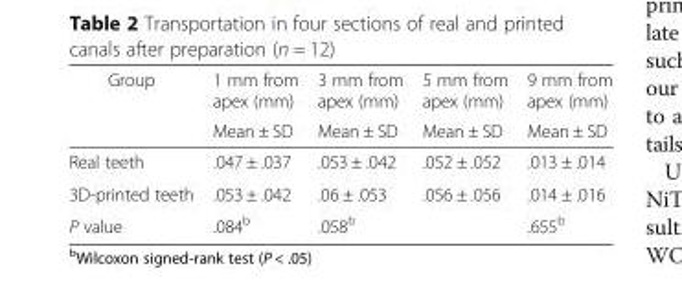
<table><thead><tr><td rowspan="2">Group</td><td rowspan="2">1 mm from apex (mm) Mean ± SD</td><td rowspan="2">3 mm from apex (mm) Mean ± SD</td><td rowspan="2">5 mm from apex (mm) Mean ± SD</td><td rowspan="2">9 mm from apex (mm) Mean ± SD</td></tr><tr></tr></thead><tbody><tr><td>Real teeth</td><td>.047 ± .037</td><td>.053 ± .042</td><td>.052 ± .052</td><td>.013 ± .014</td></tr><tr><td>3D-printed teeth</td><td>.053 ± .042</td><td>.06 ± .053</td><td>.056 ± .056</td><td>.014 ± .016</td></tr><tr><td>P value</td><td>.084<sup>b</sup></td><td>.058<sup>b</sup></td><td></td><td>.655<sup>b</sup></td></tr></tbody></table>